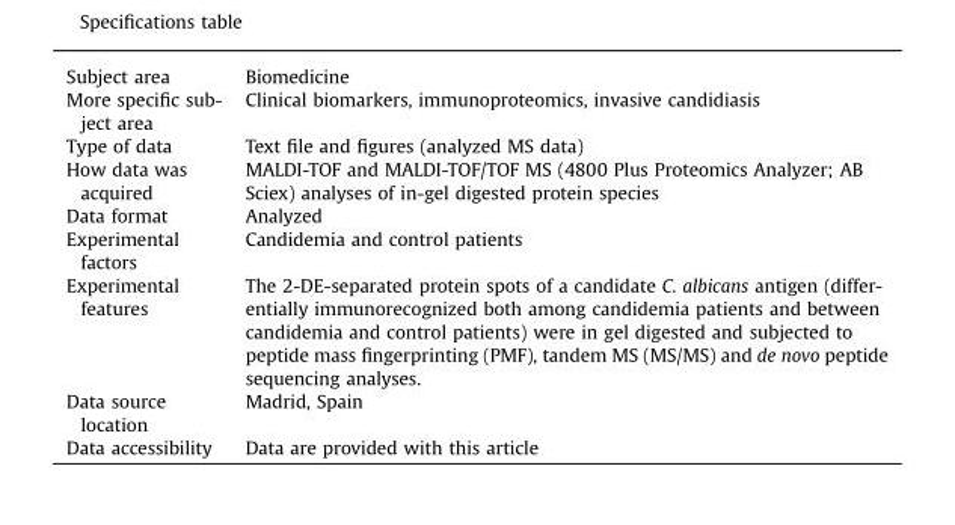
<table><thead><tr><td>Subject area</td><td>Biomedicine</td></tr></thead><tbody><tr><td>More specific sub- ject area</td><td>Clinical biomarkers, immunoproteomics, invasive candidiasis</td></tr><tr><td>Type of data</td><td>Text file and figures (analyzed MS data)</td></tr><tr><td>How data was acquired</td><td>MALDI-TOF and MALDI-TOF/TOF MS (4800 Plus Proteomics Analyzer; AB Sciex) analyses of in-gel digested protein species</td></tr><tr><td>Data format</td><td>Analyzed</td></tr><tr><td>Experimental factors</td><td>Candidemia and control patients</td></tr><tr><td>Experimental features</td><td>The 2-DE-separated protein spots of a candidate C. albicans antigen (differ- entially immunorecognized both among candidemia patients and between candidemia and control patients) were in gel digested and subjected to peptide mass fingerprinting (PMF), tandem MS (MS/MS) and de novo peptide sequencing analyses.</td></tr><tr><td>Data source location</td><td>Madrid, Spain</td></tr><tr><td>Data accessibility</td><td>Data are provided with this article</td></tr></tbody></table>